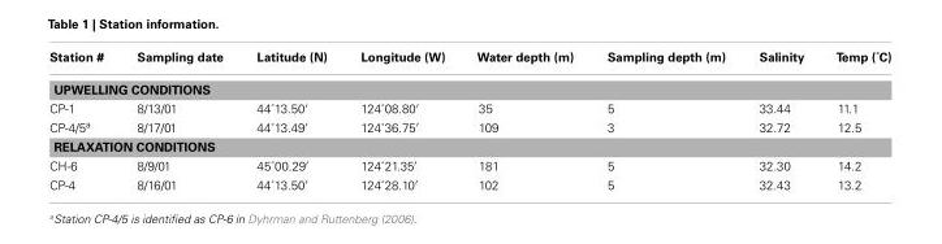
<table><thead><tr><td>Station #</td><td>Sampling date</td><td>Latitude (N)</td><td>Longitude (W)</td><td>Water depth (m)</td><td>Sampling depth (m)</td><td>Salinity</td><td>Temp (˚C)</td></tr></thead><tbody><tr><td colspan="8">UPWELLING CONDITIONS</td></tr><tr><td>CP-1</td><td>8/13/01</td><td>44˚13.50′</td><td>124˚08.80′</td><td>35</td><td>5</td><td>33.44</td><td>11.1</td></tr><tr><td>CP-4/5<sup>a</sup></td><td>8/17/01</td><td>44˚13.49′</td><td>124˚36.75′</td><td>109</td><td>3</td><td>32.72</td><td>12.5</td></tr><tr><td colspan="8">RELAXATION CONDITIONS</td></tr><tr><td>CH-6</td><td>8/9/01</td><td>45˚00.29′</td><td>124˚21.35′</td><td>181</td><td>5</td><td>32.30</td><td>14.2</td></tr><tr><td>CP-4</td><td>8/16/01</td><td>44˚13.50′</td><td>124˚28.10′</td><td>102</td><td>5</td><td>32.43</td><td>13.2</td></tr></tbody></table>